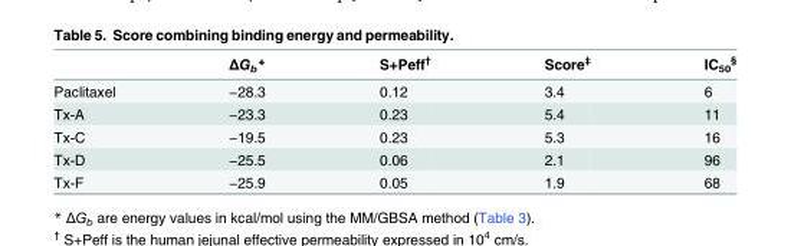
<table><thead><tr><td></td><td>ΔG<sub>b</sub>*</td><td>S+Peff<sup>†</sup></td><td>Score<sup>‡</sup></td><td>IC<sub>50</sub> <sup>§</sup></td></tr></thead><tbody><tr><td>Paclitaxel</td><td>−28.3</td><td>0.12</td><td>3.4</td><td>6</td></tr><tr><td>Tx-A</td><td>−23.3</td><td>0.23</td><td>5.4</td><td>11</td></tr><tr><td>Tx-C</td><td>−19.5</td><td>0.23</td><td>5.3</td><td>16</td></tr><tr><td>Tx-D</td><td>−25.5</td><td>0.06</td><td>2.1</td><td>96</td></tr><tr><td>Tx-F</td><td>−25.9</td><td>0.05</td><td>1.9</td><td>68</td></tr></tbody></table>